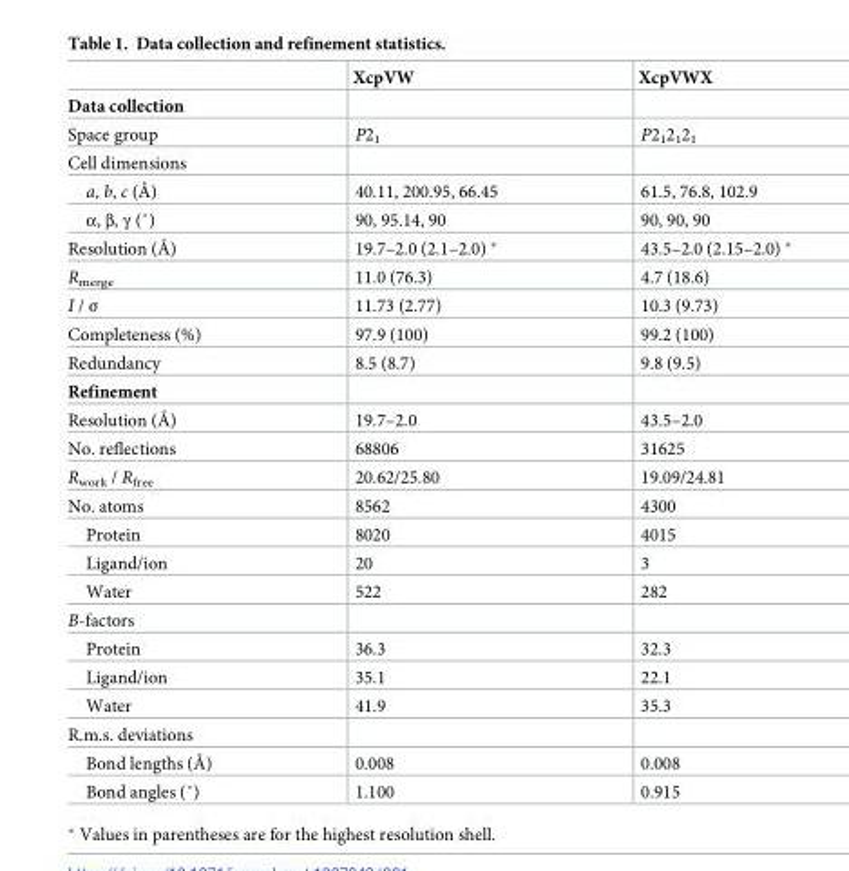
<table><thead><tr><td></td><td>XcpVW</td><td>XcpVWX</td></tr></thead><tbody><tr><td colspan="3">Data collection</td></tr><tr><td>Space group</td><td>P2<sub>1</sub></td><td>P2<sub>1</sub>2<sub>1</sub>2<sub>1</sub></td></tr><tr><td colspan="3">Cell dimensions</td></tr><tr><td>a, b, c (Å)</td><td>40.11, 200.95, 66.45</td><td>61.5, 76.8, 102.9</td></tr><tr><td>α, β, γ (˚)</td><td>90, 95.14, 90</td><td>90, 90, 90</td></tr><tr><td>Resolution (Å)</td><td>19.7–2.0 (2.1–2.0) *</td><td>43.5–2.0 (2.15–2.0)</td></tr><tr><td>R<sub>merge</sub></td><td>11.0 (76.3)</td><td>4.7 (18.6)</td></tr><tr><td>I / σ</td><td>11.73 (2.77)</td><td>10.3 (9.73)</td></tr><tr><td>Completeness (%)</td><td>97.9 (100)</td><td>99.2 (100)</td></tr><tr><td>Redundancy</td><td>8.5 (8.7)</td><td>9.8 (9.5)</td></tr><tr><td colspan="3">Refinement</td></tr><tr><td>Resolution (Å)</td><td>19.7–2.0</td><td>43.5–2.0</td></tr><tr><td>No. reflections</td><td>68806</td><td>31625</td></tr><tr><td>R<sub>work</sub> / R<sub>free</sub></td><td>20.62/25.80</td><td>19.09/24.81</td></tr><tr><td>No. atoms</td><td>8562</td><td>4300</td></tr><tr><td>Protein</td><td>8020</td><td>4015</td></tr><tr><td>Ligand/ion</td><td>20</td><td>3</td></tr><tr><td>Water</td><td>522</td><td>282</td></tr><tr><td colspan="3">B-factors</td></tr><tr><td>Protein</td><td>36.3</td><td>32.3</td></tr><tr><td>Ligand/ion</td><td>35.1</td><td>22.1</td></tr><tr><td>Water</td><td>41.9</td><td>35.3</td></tr><tr><td colspan="3">R.m.s. deviations</td></tr><tr><td>Bond lengths (Å)</td><td>0.008</td><td>0.008</td></tr><tr><td>Bond angles (˚)</td><td>1.100</td><td>0.915</td></tr></tbody></table>